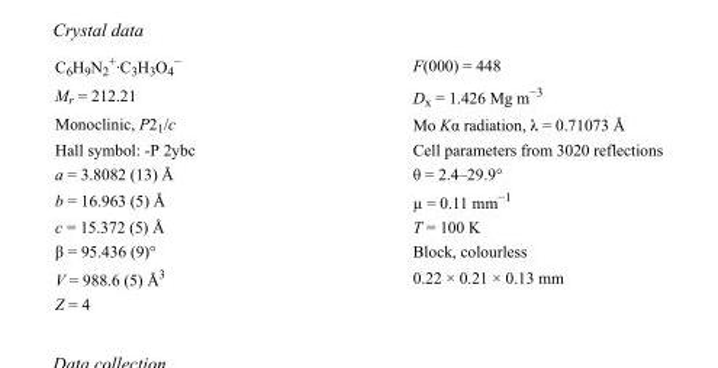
<table><tbody><tr><td>C<sub>6</sub>H<sub>9</sub>N<sub>2</sub> <sup>+</sup>·C<sub>3</sub>H<sub>3</sub>O<sub>4</sub> <sup>−</sup></td><td>F(000) = 448</td></tr><tr><td>M<sub>r</sub> = 212.21</td><td>D<sub>x</sub> = 1.426 Mg m<sup>−3</sup></td></tr><tr><td>Monoclinic, P2<sub>1</sub>/c</td><td>Mo Kα radiation, λ = 0.71073 Å</td></tr><tr><td>Hall symbol: -P 2ybc</td><td>Cell parameters from 3020 reflections</td></tr><tr><td>a = 3.8082 (13) Å</td><td>θ = 2.4–29.9°</td></tr><tr><td>b = 16.963 (5) Å</td><td>µ = 0.11 mm<sup>−1</sup></td></tr><tr><td>c = 15.372 (5) Å</td><td>T = 100 K</td></tr><tr><td>β = 95.436 (9)°</td><td>Block, colourless</td></tr><tr><td>V = 988.6 (5) Å<sup>3</sup></td><td>0.22 × 0.21 × 0.13 mm</td></tr><tr><td>Z = 4</td><td></td></tr></tbody></table>